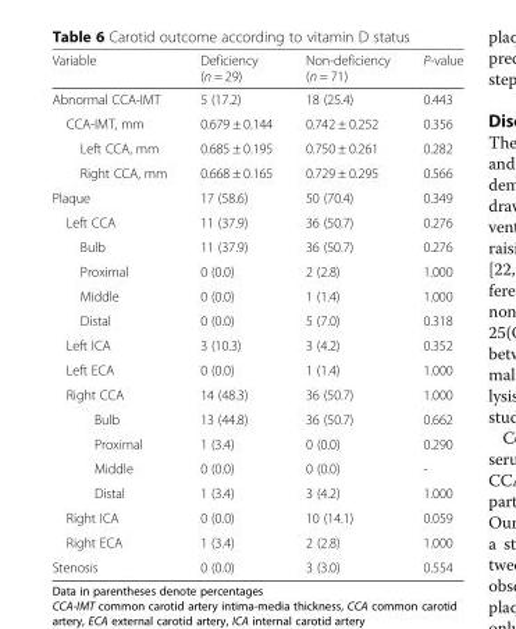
<table><thead><tr><td>Variable</td><td>Deficiency (n = 29)</td><td>Non-deficiency (n = 71)</td><td>P-value</td></tr></thead><tbody><tr><td>Abnormal CCA-IMT</td><td>5 (17.2)</td><td>18 (25.4)</td><td>0.443</td></tr><tr><td>CCA-IMT, mm</td><td>0.679 ± 0.144</td><td>0.742 ± 0.252</td><td>0.356</td></tr><tr><td>Left CCA, mm</td><td>0.685 ± 0.195</td><td>0.750 ± 0.261</td><td>0.282</td></tr><tr><td>Right CCA, mm</td><td>0.668 ± 0.165</td><td>0.729 ± 0.295</td><td>0.566</td></tr><tr><td>Plaque</td><td>17 (58.6)</td><td>50 (70.4)</td><td>0.349</td></tr><tr><td>Left CCA</td><td>11 (37.9)</td><td>36 (50.7)</td><td>0.276</td></tr><tr><td>Bulb</td><td>11 (37.9)</td><td>36 (50.7)</td><td>0.276</td></tr><tr><td>Proximal</td><td>0 (0.0)</td><td>2 (2.8)</td><td>1.000</td></tr><tr><td>Middle</td><td>0 (0.0)</td><td>1 (1.4)</td><td>1.000</td></tr><tr><td>Distal</td><td>0 (0.0)</td><td>5 (7.0)</td><td>0.318</td></tr><tr><td>Left ICA</td><td>3 (10.3)</td><td>3 (4.2)</td><td>0.352</td></tr><tr><td>Left ECA</td><td>0 (0.0)</td><td>1 (1.4)</td><td>1.000</td></tr><tr><td>Right CCA</td><td>14 (48.3)</td><td>36 (50.7)</td><td>1.000</td></tr><tr><td>Bulb</td><td>13 (44.8)</td><td>36 (50.7)</td><td>0.662</td></tr><tr><td>Proximal</td><td>1 (3.4)</td><td>0 (0.0)</td><td>0.290</td></tr><tr><td>Middle</td><td>0 (0.0)</td><td>0 (0.0)</td><td>-</td></tr><tr><td>Distal</td><td>1 (3.4)</td><td>3 (4.2)</td><td>1.000</td></tr><tr><td>Right ICA</td><td>0 (0.0)</td><td>10 (14.1)</td><td>0.059</td></tr><tr><td>Right ECA</td><td>1 (3.4)</td><td>2 (2.8)</td><td>1.000</td></tr><tr><td>Stenosis</td><td>0 (0.0)</td><td>3 (3.0)</td><td>0.554</td></tr></tbody></table>